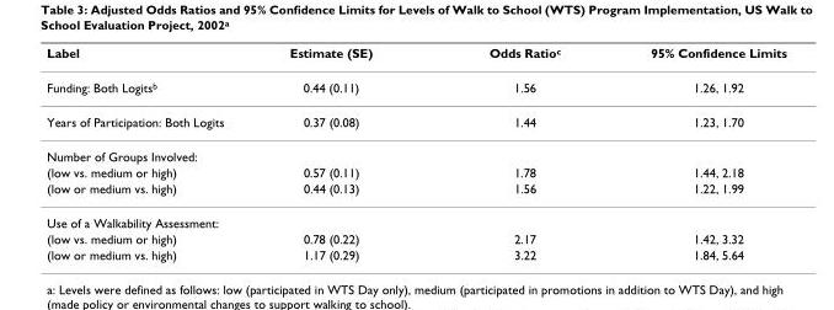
<table><thead><tr><td>Label</td><td>Estimate (SE)</td><td>Odds Ratio<sup>c</sup></td><td>95% Confidence Limits</td></tr></thead><tbody><tr><td>Funding: Both Logits<sup>b</sup></td><td>0.44 (0.11)</td><td>1.56</td><td>1.26, 1.92</td></tr><tr><td>Years of Participation: Both Logits</td><td>0.37 (0.08)</td><td>1.44</td><td>1.23, 1.70</td></tr><tr><td colspan="4">Number of Groups Involved:</td></tr><tr><td>(low vs. medium or high)</td><td>0.57 (0.11)</td><td>1.78</td><td>1.44, 2.18</td></tr><tr><td>(low or medium vs. high)</td><td>0.44 (0.13)</td><td>1.56</td><td>1.22, 1.99</td></tr><tr><td colspan="4">Use of a Walkability Assessment:</td></tr><tr><td>(low vs. medium or high)</td><td>0.78 (0.22)</td><td>2.17</td><td>1.42, 3.32</td></tr><tr><td>(low or medium vs. high)</td><td>1.17 (0.29)</td><td>3.22</td><td>1.84, 5.64</td></tr></tbody></table>